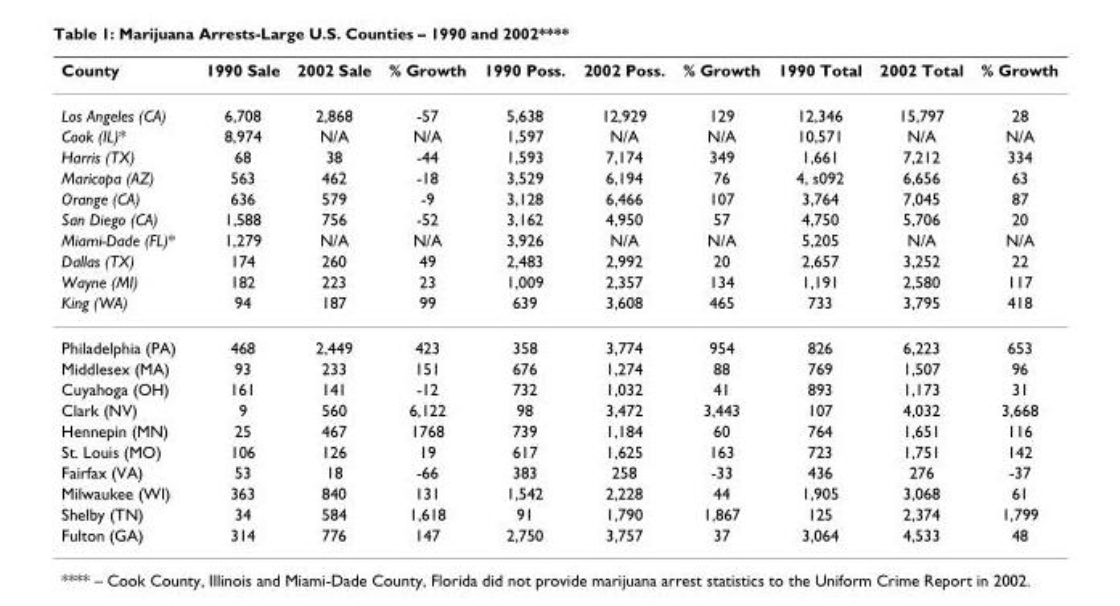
<table><thead><tr><td>County</td><td>1990 Sale</td><td>2002 Sale</td><td>% Growth</td><td>1990 Poss.</td><td>2002 Poss.</td><td>% Growth</td><td>1990 Total</td><td>2002 Total</td><td>% Growth</td></tr></thead><tbody><tr><td>Los Angeles (CA)</td><td>6,708</td><td>2,868</td><td>-57</td><td>5,638</td><td>12,929</td><td>129</td><td>12,346</td><td>15,797</td><td>28</td></tr><tr><td>Cook (IL)*</td><td>8,974</td><td>N/A</td><td>N/A</td><td>1,597</td><td>N/A</td><td>N/A</td><td>10,571</td><td>N/A</td><td>N/A</td></tr><tr><td>Harris (TX)</td><td>68</td><td>38</td><td>-44</td><td>1,593</td><td>7,174</td><td>349</td><td>1,661</td><td>7,212</td><td>334</td></tr><tr><td>Maricopa (AZ)</td><td>563</td><td>462</td><td>-18</td><td>3,529</td><td>6,194</td><td>76</td><td>4, s092</td><td>6,656</td><td>63</td></tr><tr><td>Orange (CA)</td><td>636</td><td>579</td><td>-9</td><td>3,128</td><td>6,466</td><td>107</td><td>3,764</td><td>7,045</td><td>87</td></tr><tr><td>San Diego (CA)</td><td>1,588</td><td>756</td><td>-52</td><td>3,162</td><td>4,950</td><td>57</td><td>4,750</td><td>5,706</td><td>20</td></tr><tr><td>Miami-Dade (FL)*</td><td>1,279</td><td>N/A</td><td>N/A</td><td>3,926</td><td>N/A</td><td>N/A</td><td>5,205</td><td>N/A</td><td>N/A</td></tr><tr><td>Dallas (TX)</td><td>174</td><td>260</td><td>49</td><td>2,483</td><td>2,992</td><td>20</td><td>2,657</td><td>3,252</td><td>22</td></tr><tr><td>Wayne (MI)</td><td>182</td><td>223</td><td>23</td><td>1,009</td><td>2,357</td><td>134</td><td>1,191</td><td>2,580</td><td>117</td></tr><tr><td>King (WA)</td><td>94</td><td>187</td><td>99</td><td>639</td><td>3,608</td><td>465</td><td>733</td><td>3,795</td><td>418</td></tr><tr><td>Philadelphia (PA)</td><td>468</td><td>2,449</td><td>423</td><td>358</td><td>3,774</td><td>954</td><td>826</td><td>6,223</td><td>653</td></tr><tr><td>Middlesex (MA)</td><td>93</td><td>233</td><td>151</td><td>676</td><td>1,274</td><td>88</td><td>769</td><td>1,507</td><td>96</td></tr><tr><td>Cuyahoga (OH)</td><td>161</td><td>141</td><td>-12</td><td>732</td><td>1,032</td><td>41</td><td>893</td><td>1,173</td><td>31</td></tr><tr><td>Clark (NV)</td><td>9</td><td>560</td><td>6,122</td><td>98</td><td>3,472</td><td>3,443</td><td>107</td><td>4,032</td><td>3,668</td></tr><tr><td>Hennepin (MN)</td><td>25</td><td>467</td><td>1768</td><td>739</td><td>1,184</td><td>60</td><td>764</td><td>1,651</td><td>116</td></tr><tr><td>St. Louis (MO)</td><td>106</td><td>126</td><td>19</td><td>617</td><td>1,625</td><td>163</td><td>723</td><td>1,751</td><td>142</td></tr><tr><td>Fairfax (VA)</td><td>53</td><td>18</td><td>-66</td><td>383</td><td>258</td><td>-33</td><td>436</td><td>276</td><td>-37</td></tr><tr><td>Milwaukee (WI)</td><td>363</td><td>840</td><td>131</td><td>1,542</td><td>2,228</td><td>44</td><td>1,905</td><td>3,068</td><td>61</td></tr><tr><td>Shelby (TN)</td><td>34</td><td>584</td><td>1,618</td><td>91</td><td>1,790</td><td>1,867</td><td>125</td><td>2,374</td><td>1,799</td></tr><tr><td>Fulton (GA)</td><td>314</td><td>776</td><td>147</td><td>2,750</td><td>3,757</td><td>37</td><td>3,064</td><td>4,533</td><td>48</td></tr></tbody></table>